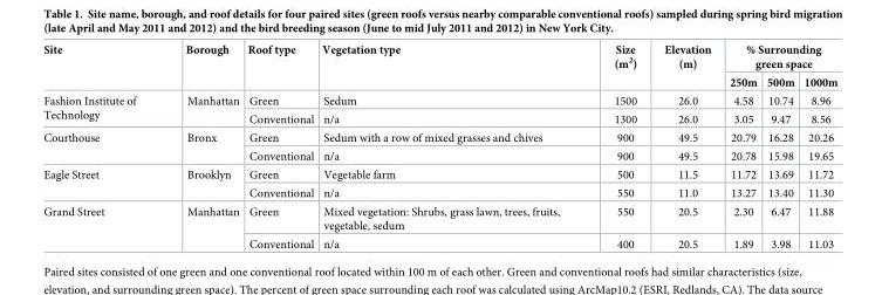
<table><thead><tr><td rowspan="2">Site</td><td rowspan="2">Borough</td><td rowspan="2">Roof type</td><td rowspan="2">Vegetation type</td><td rowspan="2">Size (m<sup>2</sup>)</td><td rowspan="2">Elevation (m)</td><td colspan="3">% Surrounding green space</td></tr><tr><td>250m</td><td>500m</td><td>1000m</td></tr></thead><tbody><tr><td rowspan="2">Fashion Institute of Technology</td><td rowspan="2">Manhattan</td><td>Green</td><td>Sedum</td><td>1500</td><td>26.0</td><td>4.58</td><td>10.74</td><td>8.96</td></tr><tr><td>Conventional</td><td>n/a</td><td>1300</td><td>26.0</td><td>3.05</td><td>9.47</td><td>8.56</td></tr><tr><td rowspan="2">Courthouse</td><td rowspan="2">Bronx</td><td>Green</td><td>Sedum with a row of mixed grasses and chives</td><td>900</td><td>49.5</td><td>20.79</td><td>16.28</td><td>20.26</td></tr><tr><td>Conventional</td><td>n/a</td><td>900</td><td>49.5</td><td>20.78</td><td>15.98</td><td>19.65</td></tr><tr><td rowspan="2">Eagle Street</td><td rowspan="2">Brooklyn</td><td>Green</td><td>Vegetable farm</td><td>500</td><td>11.5</td><td>11.72</td><td>13.69</td><td>11.72</td></tr><tr><td>Conventional</td><td>n/a</td><td>550</td><td>11.0</td><td>13.27</td><td>13.40</td><td>11.30</td></tr><tr><td rowspan="2">Grand Street</td><td rowspan="2">Manhattan</td><td>Green</td><td>Mixed vegetation: Shrubs, grass lawn, trees, fruits, vegetable, sedum</td><td>550</td><td>20.5</td><td>2.30</td><td>6.47</td><td>11.88</td></tr><tr><td>Conventional</td><td>n/a</td><td>400</td><td>20.5</td><td>1.89</td><td>3.98</td><td>11.03</td></tr></tbody></table>